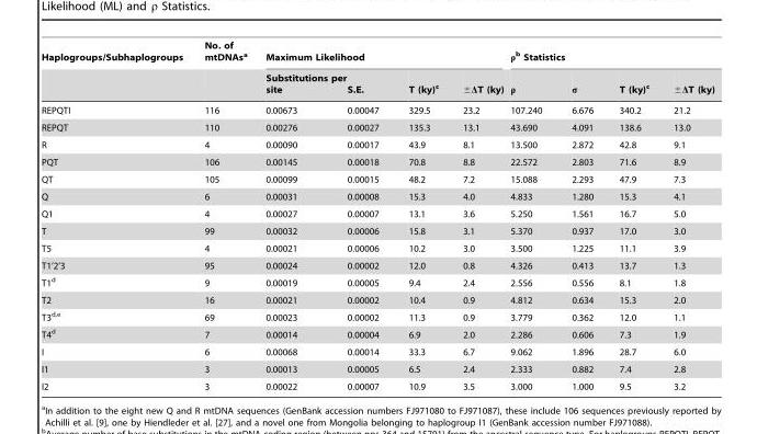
<table><thead><tr><td rowspan="2">Haplogroups/Subhaplogroups</td><td rowspan="2">No. of mtDNAs<sup>a</sup></td><td colspan="4">Maximum Likelihood</td><td colspan="4">ρ<sup>b</sup> Statistics</td></tr><tr><td>Substitutions per site</td><td>S.E.</td><td>T (ky)<sup>c</sup></td><td>±ΔT (ky)</td><td>ρ</td><td>σ</td><td>T (ky)<sup>c</sup></td><td>±ΔT (ky)</td></tr></thead><tbody><tr><td>REPQTI</td><td>116</td><td>0.00673</td><td>0.00047</td><td>329.5</td><td>23.2</td><td>107.240</td><td>6.676</td><td>340.2</td><td>21.2</td></tr><tr><td>REPQT</td><td>110</td><td>0.00276</td><td>0.00027</td><td>135.3</td><td>13.1</td><td>43.690</td><td>4.091</td><td>138.6</td><td>13.0</td></tr><tr><td>R</td><td>4</td><td>0.00090</td><td>0.00017</td><td>43.9</td><td>8.1</td><td>13.500</td><td>2.872</td><td>42.8</td><td>9.1</td></tr><tr><td>PQT</td><td>106</td><td>0.00145</td><td>0.00018</td><td>70.8</td><td>8.8</td><td>22.572</td><td>2.803</td><td>71.6</td><td>8.9</td></tr><tr><td>QT</td><td>105</td><td>0.00099</td><td>0.00015</td><td>48.2</td><td>7.2</td><td>15.088</td><td>2.293</td><td>47.9</td><td>7.3</td></tr><tr><td>Q</td><td>6</td><td>0.00031</td><td>0.00008</td><td>15.3</td><td>4.0</td><td>4.833</td><td>1.280</td><td>15.3</td><td>4.1</td></tr><tr><td>Q1</td><td>4</td><td>0.00027</td><td>0.00007</td><td>13.1</td><td>3.6</td><td>5.250</td><td>1.561</td><td>16.7</td><td>5.0</td></tr><tr><td>T</td><td>99</td><td>0.00032</td><td>0.00006</td><td>15.8</td><td>3.1</td><td>5.370</td><td>0.937</td><td>17.0</td><td>3.0</td></tr><tr><td>T5</td><td>4</td><td>0.00021</td><td>0.00006</td><td>10.2</td><td>3.0</td><td>3.500</td><td>1.225</td><td>11.1</td><td>3.9</td></tr><tr><td>T1’2’3</td><td>95</td><td>0.00024</td><td>0.00002</td><td>12.0</td><td>0.8</td><td>4.326</td><td>0.413</td><td>13.7</td><td>1.3</td></tr><tr><td>T1<sup>d</sup></td><td>9</td><td>0.00019</td><td>0.00005</td><td>9.4</td><td>2.4</td><td>2.556</td><td>0.556</td><td>8.1</td><td>1.8</td></tr><tr><td>T2</td><td>16</td><td>0.00021</td><td>0.00002</td><td>10.4</td><td>0.9</td><td>4.812</td><td>0.634</td><td>15.3</td><td>2.0</td></tr><tr><td>T3d,e</td><td>69</td><td>0.00023</td><td>0.00002</td><td>11.3</td><td>0.9</td><td>3.779</td><td>0.362</td><td>12.0</td><td>1.1</td></tr><tr><td>T4<sup>d</sup></td><td>7</td><td>0.00014</td><td>0.00004</td><td>6.9</td><td>2.0</td><td>2.286</td><td>0.606</td><td>7.3</td><td>1.9</td></tr><tr><td>I</td><td>6</td><td>0.00068</td><td>0.00014</td><td>33.3</td><td>6.7</td><td>9.062</td><td>1.896</td><td>28.7</td><td>6.0</td></tr><tr><td>I1</td><td>3</td><td>0.00013</td><td>0.00005</td><td>6.5</td><td>2.4</td><td>2.333</td><td>0.882</td><td>7.4</td><td>2.8</td></tr><tr><td>I2</td><td>3</td><td>0.00022</td><td>0.00007</td><td>10.9</td><td>3.5</td><td>3.000</td><td>1.000</td><td>9.5</td><td>3.2</td></tr></tbody></table>